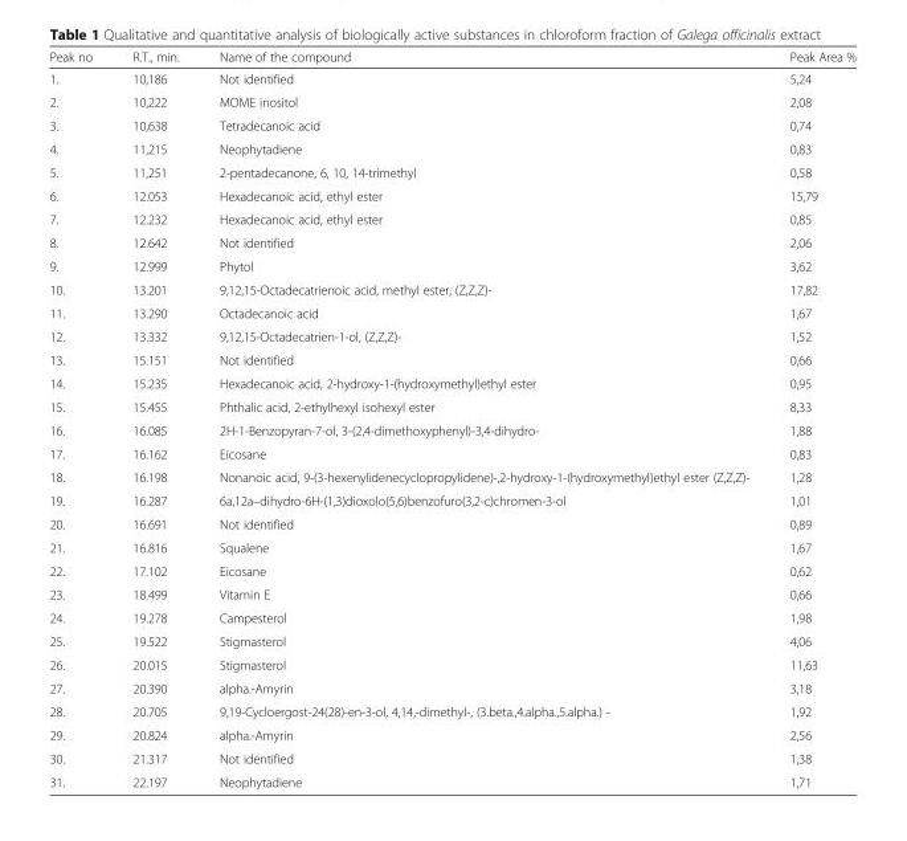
<table><thead><tr><td>Peak no</td><td>R.T., min.</td><td>Name of the compound</td><td>Peak Area %</td></tr></thead><tbody><tr><td>1.</td><td>10,186</td><td>Not identified</td><td>5,24</td></tr><tr><td>2.</td><td>10,222</td><td>MOME inositol</td><td>2,08</td></tr><tr><td>3.</td><td>10,638</td><td>Tetradecanoic acid</td><td>0,74</td></tr><tr><td>4.</td><td>11,215</td><td>Neophytadiene</td><td>0,83</td></tr><tr><td>5.</td><td>11,251</td><td>2-pentadecanone, 6, 10, 14-trimethyl</td><td>0,58</td></tr><tr><td>6.</td><td>12.053</td><td>Hexadecanoic acid, ethyl ester</td><td>15,79</td></tr><tr><td>7.</td><td>12.232</td><td>Hexadecanoic acid, ethyl ester</td><td>0,85</td></tr><tr><td>8.</td><td>12.642</td><td>Not identified</td><td>2,06</td></tr><tr><td>9.</td><td>12.999</td><td>Phytol</td><td>3,62</td></tr><tr><td>10.</td><td>13.201</td><td>9,12,15-Octadecatrienoic acid, methyl ester, (Z,Z,Z)-</td><td>17,82</td></tr><tr><td>11.</td><td>13.290</td><td>Octadecanoic acid</td><td>1,67</td></tr><tr><td>12.</td><td>13.332</td><td>9,12,15-Octadecatrien-1-ol, (Z,Z,Z)-</td><td>1,52</td></tr><tr><td>13.</td><td>15.151</td><td>Not identified</td><td>0,66</td></tr><tr><td>14.</td><td>15.235</td><td>Hexadecanoic acid, 2-hydroxy-1-(hydroxymethyl)ethyl ester</td><td>0,95</td></tr><tr><td>15.</td><td>15.455</td><td>Phthalic acid, 2-ethylhexyl isohexyl ester</td><td>8,33</td></tr><tr><td>16.</td><td>16.085</td><td>2H-1-Benzopyran-7-ol, 3-(2,4-dimethoxyphenyl)-3,4-dihydro-</td><td>1,88</td></tr><tr><td>17.</td><td>16.162</td><td>Eicosane</td><td>0,83</td></tr><tr><td>18.</td><td>16.198</td><td>Nonanoic acid, 9-(3-hexenylidenecyclopropylidene)-,2-hydroxy-1-(hydroxymethyl)ethyl ester (Z,Z,Z)-</td><td>1,28</td></tr><tr><td>19.</td><td>16.287</td><td>6a,12a–dihydro-6H-(1,3)dioxolo(5,6)benzofuro(3,2-c)chromen-3-ol</td><td>1,01</td></tr><tr><td>20.</td><td>16.691</td><td>Not identified</td><td>0,89</td></tr><tr><td>21.</td><td>16.816</td><td>Squalene</td><td>1,67</td></tr><tr><td>22.</td><td>17.102</td><td>Eicosane</td><td>0,62</td></tr><tr><td>23.</td><td>18.499</td><td>Vitamin E</td><td>0,66</td></tr><tr><td>24.</td><td>19.278</td><td>Campesterol</td><td>1,98</td></tr><tr><td>25.</td><td>19.522</td><td>Stigmasterol</td><td>4,06</td></tr><tr><td>26.</td><td>20.015</td><td>Stigmasterol</td><td>11,63</td></tr><tr><td>27.</td><td>20.390</td><td>alpha.-Amyrin</td><td>3,18</td></tr><tr><td>28.</td><td>20.705</td><td>9,19-Cycloergost-24(28)-en-3-ol, 4,14,-dimethyl-, (3.beta.,4.alpha.,5.alpha.) -</td><td>1,92</td></tr><tr><td>29.</td><td>20.824</td><td>alpha.-Amyrin</td><td>2,56</td></tr><tr><td>30.</td><td>21.317</td><td>Not identified</td><td>1,38</td></tr><tr><td>31.</td><td>22.197</td><td>Neophytadiene</td><td>1,71</td></tr></tbody></table>